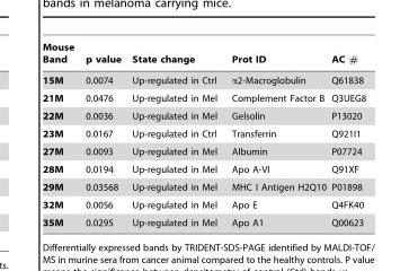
<table><thead><tr><td>Mouse Band</td><td>p value</td><td>State change</td><td>Prot ID</td><td>AC #</td></tr></thead><tbody><tr><td>15M</td><td>0.0074</td><td>Up-regulated in Ctrl</td><td>α2-Macroglobulin</td><td>Q61838</td></tr><tr><td>21M</td><td>0.0476</td><td>Up-regulated in Mel</td><td>Complement Factor B</td><td>Q3UEG8</td></tr><tr><td>22M</td><td>0.0036</td><td>Up-regulated in Mel</td><td>Gelsolin</td><td>P13020</td></tr><tr><td>23M</td><td>0.0167</td><td>Up-regulated in Ctrl</td><td>Transferrin</td><td>Q921I1</td></tr><tr><td>27M</td><td>0.0093</td><td>Up-regulated in Mel</td><td>Albumin</td><td>P07724</td></tr><tr><td>28M</td><td>0.0194</td><td>Up-regulated in Mel</td><td>Apo A-VI</td><td>Q91XF</td></tr><tr><td>29M</td><td>0.03568</td><td>Up-regulated in Mel</td><td>MHC I Antigen H2Q10</td><td>P01898</td></tr><tr><td>32M</td><td>0.0056</td><td>Up-regulated in Mel</td><td>Apo E</td><td>Q4FK40</td></tr><tr><td>35M</td><td>0.0295</td><td>Up-regulated in Mel</td><td>Apo A1</td><td>Q00623</td></tr></tbody></table>